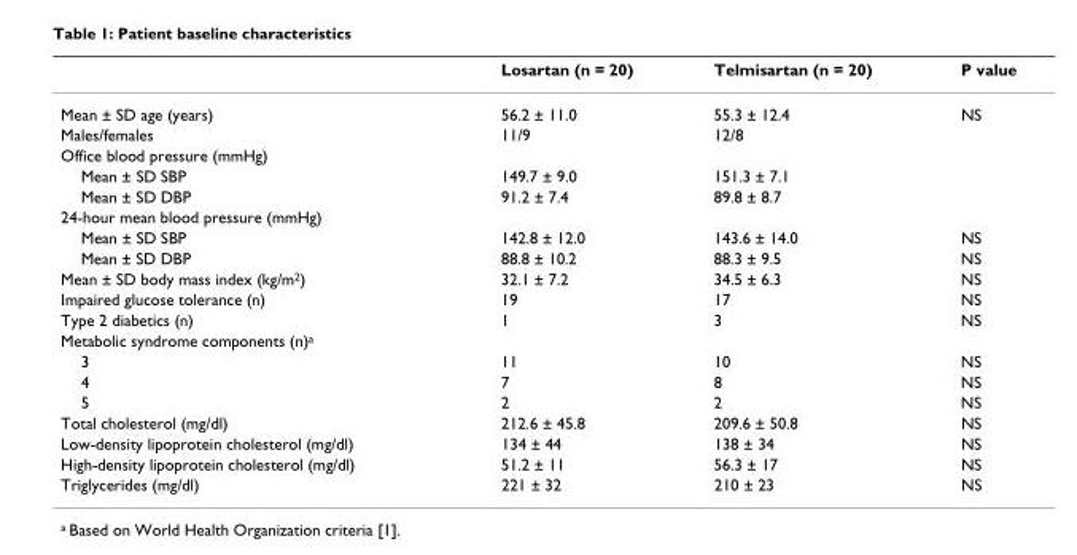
<table><thead><tr><td></td><td>Losartan (n = 20)</td><td>Telmisartan (n = 20)</td><td>P value</td></tr></thead><tbody><tr><td>Mean ± SD age (years)</td><td>56.2 ± 11.0</td><td>55.3 ± 12.4</td><td>NS</td></tr><tr><td>Males/females</td><td>11/9</td><td>12/8</td><td></td></tr><tr><td colspan="4">Office blood pressure (mmHg)</td></tr><tr><td>Mean ± SD SBP</td><td>149.7 ± 9.0</td><td>151.3 ± 7.1</td><td></td></tr><tr><td>Mean ± SD DBP</td><td>91.2 ± 7.4</td><td>89.8 ± 8.7</td><td></td></tr><tr><td colspan="4">24-hour mean blood pressure (mmHg)</td></tr><tr><td>Mean ± SD SBP</td><td>142.8 ± 12.0</td><td>143.6 ± 14.0</td><td>NS</td></tr><tr><td>Mean ± SD DBP</td><td>88.8 ± 10.2</td><td>88.3 ± 9.5</td><td>NS</td></tr><tr><td>Mean ± SD body mass index (kg/m<sup>2</sup>)</td><td>32.1 ± 7.2</td><td>34.5 ± 6.3</td><td>NS</td></tr><tr><td>Impaired glucose tolerance (n)</td><td>19</td><td>17</td><td>NS</td></tr><tr><td>Type 2 diabetics (n)</td><td>1</td><td>3</td><td>NS</td></tr><tr><td colspan="4">Metabolic syndrome components (n)<sup>a</sup></td></tr><tr><td>3</td><td>11</td><td>10</td><td>NS</td></tr><tr><td>4</td><td>7</td><td>8</td><td>NS</td></tr><tr><td>5</td><td>2</td><td>2</td><td>NS</td></tr><tr><td>Total cholesterol (mg/dl)</td><td>212.6 ± 45.8</td><td>209.6 ± 50.8</td><td>NS</td></tr><tr><td>Low-density lipoprotein cholesterol (mg/dl)</td><td>134 ± 44</td><td>138 ± 34</td><td>NS</td></tr><tr><td>High-density lipoprotein cholesterol (mg/dl)</td><td>51.2 ± 11</td><td>56.3 ± 17</td><td>NS</td></tr><tr><td>Triglycerides (mg/dl)</td><td>221 ± 32</td><td>210 ± 23</td><td>NS</td></tr></tbody></table>